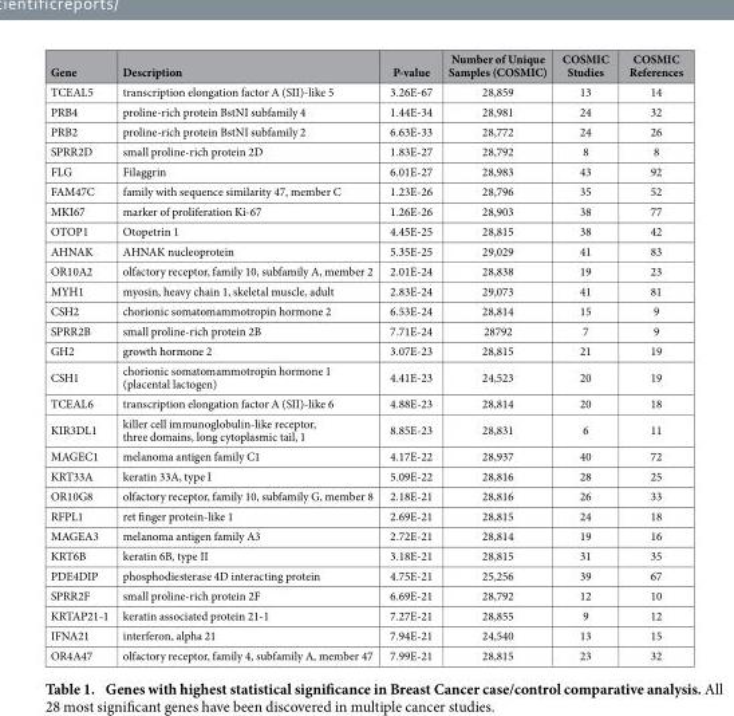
<table><thead><tr><td>Gene</td><td>Description</td><td>P-value</td><td>Number of Unique Samples (COSMIC)</td><td>COSMIC Studies</td><td>COSMIC References</td></tr></thead><tbody><tr><td>TCEAL5</td><td>transcription elongation factor A (SII)-like 5</td><td>3.26E-67</td><td>28,859</td><td>13</td><td>14</td></tr><tr><td>PRB4</td><td>proline-rich protein BstNI subfamily 4</td><td>1.44E-34</td><td>28,981</td><td>24</td><td>32</td></tr><tr><td>PRB2</td><td>proline-rich protein BstNI subfamily 2</td><td>6.63E-33</td><td>28,772</td><td>24</td><td>26</td></tr><tr><td>SPRR2D</td><td>small proline-rich protein 2D</td><td>1.83E-27</td><td>28,792</td><td>8</td><td>8</td></tr><tr><td>FLG</td><td>Filaggrin</td><td>6.01E-27</td><td>28,983</td><td>43</td><td>92</td></tr><tr><td>FAM47C</td><td>family with sequence similarity 47, member C</td><td>1.23E-26</td><td>28,796</td><td>35</td><td>52</td></tr><tr><td>MKI67</td><td>marker of proliferation Ki-67</td><td>1.26E-26</td><td>28,903</td><td>38</td><td>77</td></tr><tr><td>OTOP1</td><td>Otopetrin 1</td><td>4.45E-25</td><td>28,815</td><td>38</td><td>42</td></tr><tr><td>AHNAK</td><td>AHNAK nucleoprotein</td><td>5.35E-25</td><td>29,029</td><td>41</td><td>83</td></tr><tr><td>OR10A2</td><td>olfactory receptor, family 10, subfamily A, member 2</td><td>2.01E-24</td><td>28,838</td><td>19</td><td>23</td></tr><tr><td>MYH1</td><td>myosin, heavy chain 1, skeletal muscle, adult</td><td>2.83E-24</td><td>29,073</td><td>41</td><td>81</td></tr><tr><td>CSH2</td><td>chorionic somatomammotropin hormone 2</td><td>6.53E-24</td><td>28,814</td><td>15</td><td>9</td></tr><tr><td>SPRR2B</td><td>small proline-rich protein 2B</td><td>7.71E-24</td><td>28792</td><td>7</td><td>9</td></tr><tr><td>GH2</td><td>growth hormone 2</td><td>3.07E-23</td><td>28,815</td><td>21</td><td>19</td></tr><tr><td>CSH1</td><td>chorionic somatomammotropin hormone 1 (placental lactogen)</td><td>4.41E-23</td><td>24,523</td><td>20</td><td>19</td></tr><tr><td>TCEAL6</td><td>transcription elongation factor A (SII)-like 6</td><td>4.88E-23</td><td>28,814</td><td>20</td><td>18</td></tr><tr><td>KIR3DL1</td><td>killer cell immunoglobulin-like receptor, three domains, long cytoplasmic tail, 1</td><td>8.85E-23</td><td>28,831</td><td>6</td><td>11</td></tr><tr><td>MAGEC1</td><td>melanoma antigen family C1</td><td>4.17E-22</td><td>28,937</td><td>40</td><td>72</td></tr><tr><td>KRT33A</td><td>keratin 33A, type I</td><td>5.09E-22</td><td>28,816</td><td>28</td><td>25</td></tr><tr><td>OR10G8</td><td>olfactory receptor, family 10, subfamily G, member 8</td><td>2.18E-21</td><td>28,816</td><td>26</td><td>33</td></tr><tr><td>RFPL1</td><td>ret finger protein-like 1</td><td>2.69E-21</td><td>28,815</td><td>24</td><td>18</td></tr><tr><td>MAGEA3</td><td>melanoma antigen family A3</td><td>2.72E-21</td><td>28,814</td><td>19</td><td>16</td></tr><tr><td>KRT6B</td><td>keratin 6B, type II</td><td>3.18E-21</td><td>28,815</td><td>31</td><td>35</td></tr><tr><td>PDE4DIP</td><td>phosphodiesterase 4D interacting protein</td><td>4.75E-21</td><td>25,256</td><td>39</td><td>67</td></tr><tr><td>SPRR2F</td><td>small proline-rich protein 2F</td><td>6.69E-21</td><td>28,792</td><td>12</td><td>10</td></tr><tr><td>KRTAP21-1</td><td>keratin associated protein 21-1</td><td>7.27E-21</td><td>28,855</td><td>9</td><td>12</td></tr><tr><td>IFNA21</td><td>interferon, alpha 21</td><td>7.94E-21</td><td>24,540</td><td>13</td><td>15</td></tr><tr><td>OR4A47</td><td>olfactory receptor, family 4, subfamily A, member 47</td><td>7.99E-21</td><td>28,815</td><td>23</td><td>32</td></tr></tbody></table>